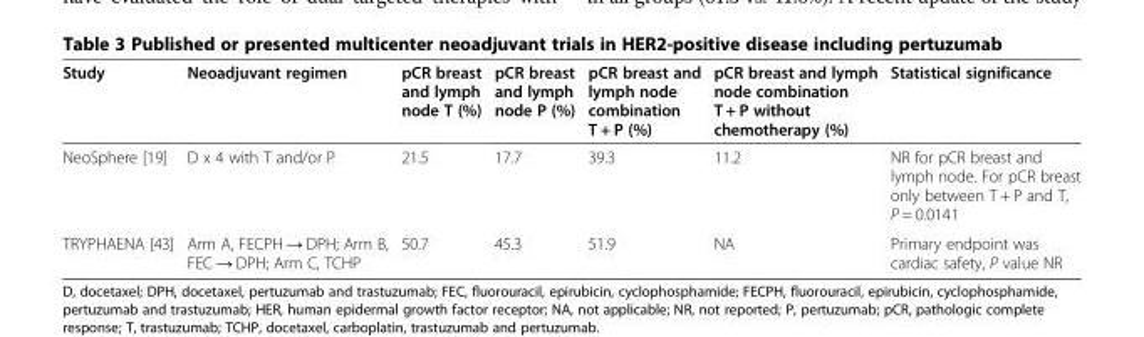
<table><thead><tr><td>Study</td><td>Neoadjuvant regimen</td><td>pCR breast and lymph node T (%)</td><td>pCR breast and lymph node P (%)</td><td>pCR breast and lymph node combination T + P (%)</td><td>pCR breast and lymph node combination T + P without chemotherapy (%)</td><td>Statistical significance</td></tr></thead><tbody><tr><td>NeoSphere [19]</td><td>D x 4 with T and/or P</td><td>21.5</td><td>17.7</td><td>39.3</td><td>11.2</td><td>NR for pCR breast and lymph node. For pCR breast only between T + P and T, P = 0.0141</td></tr><tr><td>TRYPHAENA [43]</td><td>Arm A, FECPH → DPH; Arm B, FEC → DPH; Arm C, TCHP</td><td>50.7</td><td>45.3</td><td>51.9</td><td>NA</td><td>Primary endpoint was cardiac safety, P value NR</td></tr></tbody></table>